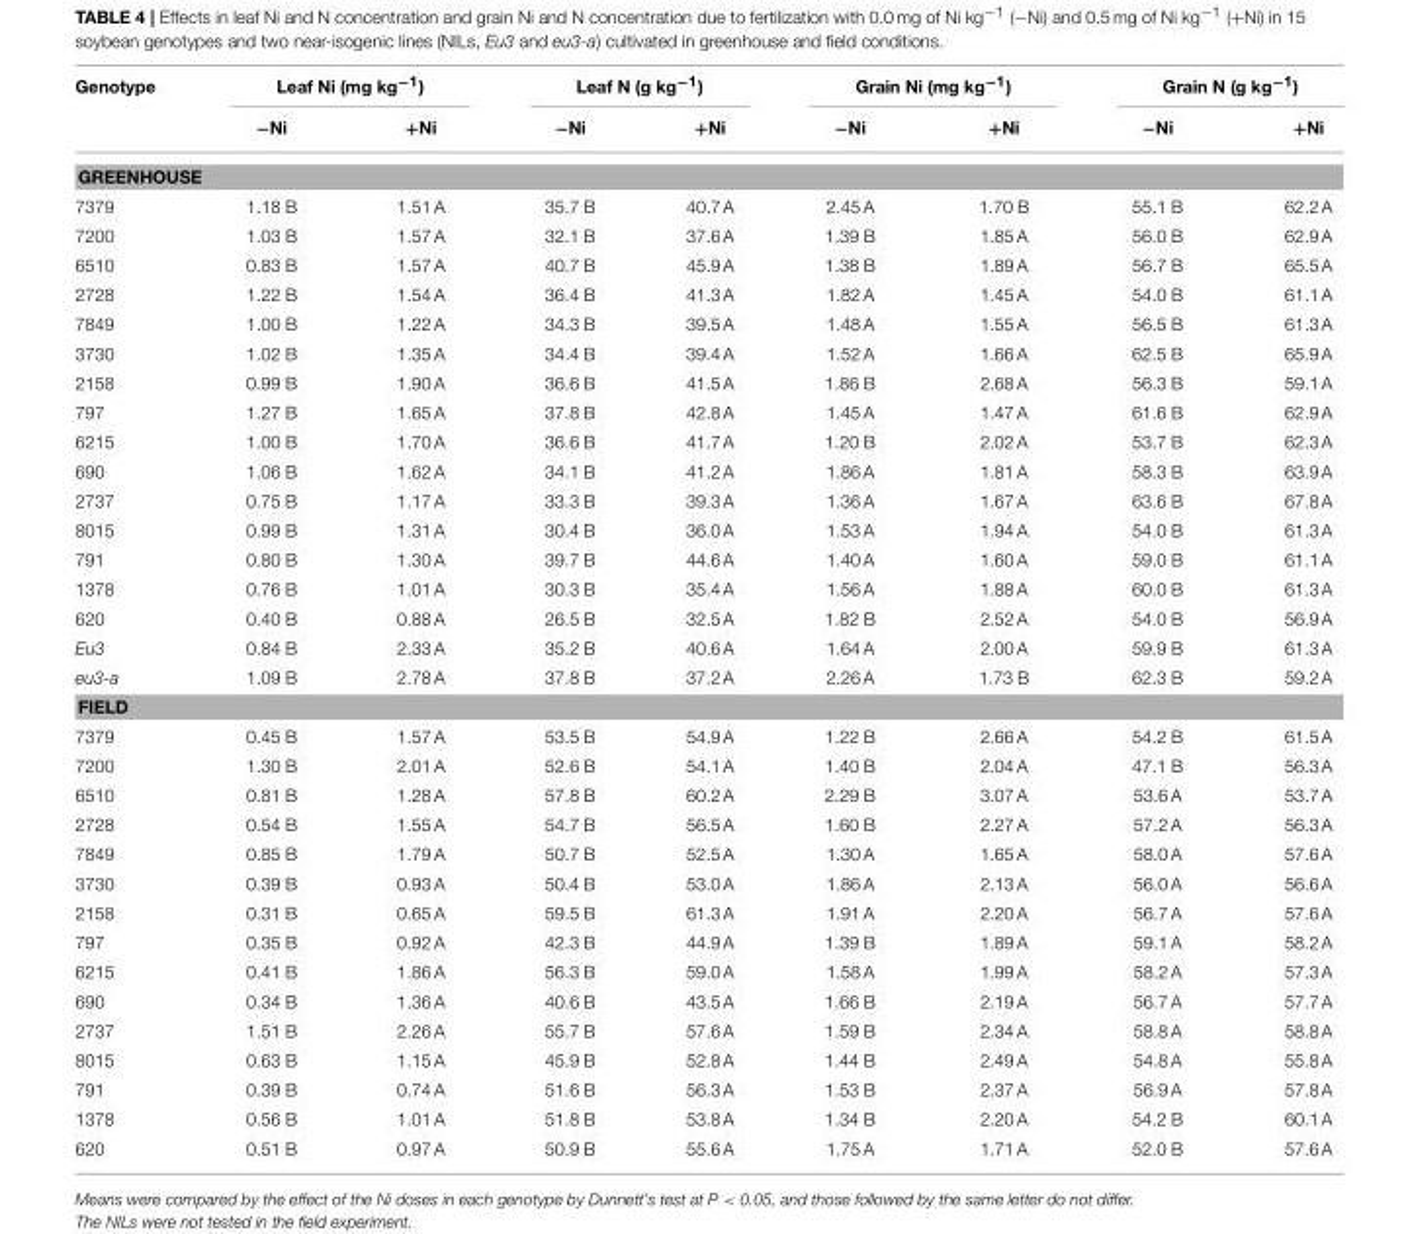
<table><thead><tr><td rowspan="2">Genotype</td><td colspan="2">Leaf Ni (mg kg<sup>−1</sup>)</td><td colspan="2">Leaf N (g kg<sup>−1</sup>)</td><td colspan="2">Grain Ni (mg kg<sup>−1</sup>)</td><td colspan="2">Grain N (g kg<sup>−1</sup>)</td></tr><tr><td>−Ni</td><td>+Ni</td><td>−Ni</td><td>+Ni</td><td>−Ni</td><td>+Ni</td><td>−Ni</td><td>+Ni</td></tr></thead><tbody><tr><td colspan="9">GREENHOUSE</td></tr><tr><td>7379</td><td>1.18 B</td><td>1.51 A</td><td>35.7 B</td><td>40.7 A</td><td>2.45 A</td><td>1.70 B</td><td>55.1 B</td><td>62.2 A</td></tr><tr><td>7200</td><td>1.03 B</td><td>1.57 A</td><td>32.1 B</td><td>37.6 A</td><td>1.39 B</td><td>1.85 A</td><td>56.0 B</td><td>62.9 A</td></tr><tr><td>6510</td><td>0.83 B</td><td>1.57 A</td><td>40.7 B</td><td>45.9 A</td><td>1.38 B</td><td>1.89 A</td><td>56.7 B</td><td>65.5 A</td></tr><tr><td>2728</td><td>1.22 B</td><td>1.54 A</td><td>36.4 B</td><td>41.3 A</td><td>1.82 A</td><td>1.45 A</td><td>54.0 B</td><td>61.1 A</td></tr><tr><td>7849</td><td>1.00 B</td><td>1.22 A</td><td>34.3 B</td><td>39.5 A</td><td>1.48 A</td><td>1.55 A</td><td>56.5 B</td><td>61.3 A</td></tr><tr><td>3730</td><td>1.02 B</td><td>1.35 A</td><td>34.4 B</td><td>39.4 A</td><td>1.52 A</td><td>1.66 A</td><td>62.5 B</td><td>65.9 A</td></tr><tr><td>2158</td><td>0.99 B</td><td>1.90 A</td><td>36.6 B</td><td>41.5 A</td><td>1.86 B</td><td>2.68 A</td><td>56.3 B</td><td>59.1 A</td></tr><tr><td>797</td><td>1.27 B</td><td>1.65 A</td><td>37.8 B</td><td>42.8 A</td><td>1.45 A</td><td>1.47 A</td><td>61.6 B</td><td>62.9 A</td></tr><tr><td>6215</td><td>1.00 B</td><td>1.70 A</td><td>36.6 B</td><td>41.7 A</td><td>1.20 B</td><td>2.02 A</td><td>53.7 B</td><td>62.3 A</td></tr><tr><td>690</td><td>1.06 B</td><td>1.62 A</td><td>34.1 B</td><td>41.2 A</td><td>1.86 A</td><td>1.81 A</td><td>58.3 B</td><td>63.9 A</td></tr><tr><td>2737</td><td>0.75 B</td><td>1.17 A</td><td>33.3 B</td><td>39.3 A</td><td>1.36 A</td><td>1.67 A</td><td>63.6 B</td><td>67.8 A</td></tr><tr><td>8015</td><td>0.99 B</td><td>1.31 A</td><td>30.4 B</td><td>36.0 A</td><td>1.53 A</td><td>1.94 A</td><td>54.0 B</td><td>61.3 A</td></tr><tr><td>791</td><td>0.80 B</td><td>1.30 A</td><td>39.7 B</td><td>44.6 A</td><td>1.40 A</td><td>1.60 A</td><td>59.0 B</td><td>61.1 A</td></tr><tr><td>1378</td><td>0.76 B</td><td>1.01 A</td><td>30.3 B</td><td>35.4 A</td><td>1.56 A</td><td>1.88 A</td><td>60.0 B</td><td>61.3 A</td></tr><tr><td>620</td><td>0.40 B</td><td>0.88 A</td><td>26.5 B</td><td>32.5 A</td><td>1.82 B</td><td>2.52 A</td><td>54.0 B</td><td>56.9 A</td></tr><tr><td>Eu3</td><td>0.84 B</td><td>2.33 A</td><td>35.2 B</td><td>40.6 A</td><td>1.64 A</td><td>2.00 A</td><td>59.9 B</td><td>61.3 A</td></tr><tr><td>eu3-a</td><td>1.09 B</td><td>2.78 A</td><td>37.8 B</td><td>37.2 A</td><td>2.26 A</td><td>1.73 B</td><td>62.3 B</td><td>59.2 A</td></tr><tr><td colspan="9">FIELD</td></tr><tr><td>7379</td><td>0.45 B</td><td>1.57 A</td><td>53.5 B</td><td>54.9 A</td><td>1.22 B</td><td>2.66 A</td><td>54.2 B</td><td>61.5 A</td></tr><tr><td>7200</td><td>1.30 B</td><td>2.01 A</td><td>52.6 B</td><td>54.1 A</td><td>1.40 B</td><td>2.04 A</td><td>47.1 B</td><td>56.3 A</td></tr><tr><td>6510</td><td>0.81 B</td><td>1.28 A</td><td>57.8 B</td><td>60.2 A</td><td>2.29 B</td><td>3.07 A</td><td>53.6 A</td><td>53.7 A</td></tr><tr><td>2728</td><td>0.54 B</td><td>1.55 A</td><td>54.7 B</td><td>56.5 A</td><td>1.60 B</td><td>2.27 A</td><td>57.2 A</td><td>56.3 A</td></tr><tr><td>7849</td><td>0.85 B</td><td>1.79 A</td><td>50.7 B</td><td>52.5 A</td><td>1.30 A</td><td>1.65 A</td><td>58.0 A</td><td>57.6 A</td></tr><tr><td>3730</td><td>0.39 B</td><td>0.93 A</td><td>50.4 B</td><td>53.0 A</td><td>1.86 A</td><td>2.13 A</td><td>56.0 A</td><td>56.6 A</td></tr><tr><td>2158</td><td>0.31 B</td><td>0.65 A</td><td>59.5 B</td><td>61.3 A</td><td>1.91 A</td><td>2.20 A</td><td>56.7 A</td><td>57.6 A</td></tr><tr><td>797</td><td>0.35 B</td><td>0.92 A</td><td>42.3 B</td><td>44.9 A</td><td>1.39 B</td><td>1.89 A</td><td>59.1 A</td><td>58.2 A</td></tr><tr><td>6215</td><td>0.41 B</td><td>1.86 A</td><td>56.3 B</td><td>59.0 A</td><td>1.58 A</td><td>1.99 A</td><td>58.2 A</td><td>57.3 A</td></tr><tr><td>690</td><td>0.34 B</td><td>1.36 A</td><td>40.6 B</td><td>43.5 A</td><td>1.66 B</td><td>2.19 A</td><td>56.7 A</td><td>57.7 A</td></tr><tr><td>2737</td><td>1.51 B</td><td>2.26 A</td><td>55.7 B</td><td>57.6 A</td><td>1.59 B</td><td>2.34 A</td><td>58.8 A</td><td>58.8 A</td></tr><tr><td>8015</td><td>0.63 B</td><td>1.15 A</td><td>45.9 B</td><td>52.8 A</td><td>1.44 B</td><td>2.49 A</td><td>54.8 A</td><td>55.8 A</td></tr><tr><td>791</td><td>0.39 B</td><td>0.74 A</td><td>51.6 B</td><td>56.3 A</td><td>1.53 B</td><td>2.37 A</td><td>56.9 A</td><td>57.8 A</td></tr><tr><td>1378</td><td>0.56 B</td><td>1.01 A</td><td>51.8 B</td><td>53.8 A</td><td>1.34 B</td><td>2.20 A</td><td>54.2 B</td><td>60.1 A</td></tr><tr><td>620</td><td>0.51 B</td><td>0.97 A</td><td>50.9 B</td><td>55.6 A</td><td>1.75 A</td><td>1.71 A</td><td>52.0 B</td><td>57.6 A</td></tr></tbody></table>